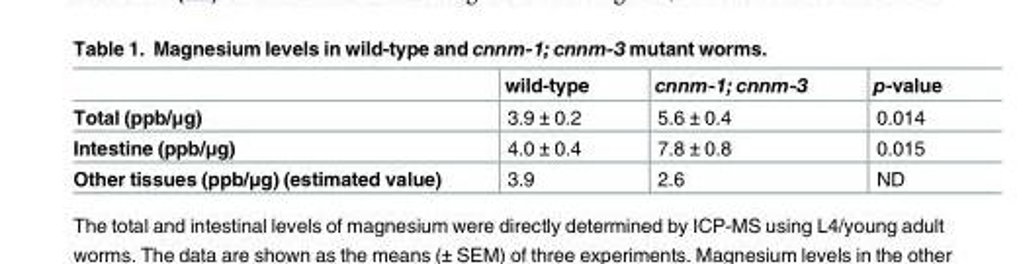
<table><thead><tr><td></td><td>wild-type</td><td>cnnm-1; cnnm-3</td><td>p-value</td></tr></thead><tbody><tr><td>Total (ppb/μg)</td><td>3.9 ± 0.2</td><td>5.6 ± 0.4</td><td>0.014</td></tr><tr><td>Intestine (ppb/μg)</td><td>4.0 ± 0.4</td><td>7.8 ± 0.8</td><td>0.015</td></tr><tr><td>Other tissues (ppb/μg) (estimated value)</td><td>3.9</td><td>2.6</td><td>ND</td></tr></tbody></table>